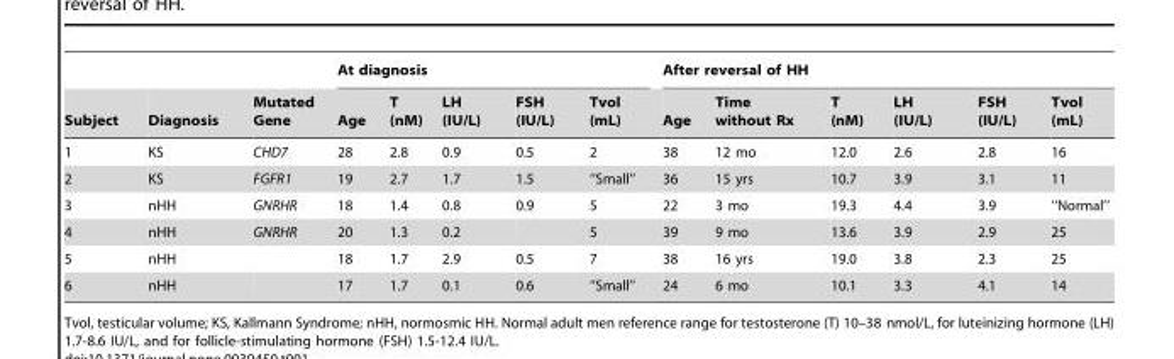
<table><thead><tr><td rowspan="2">Subject</td><td rowspan="2">Diagnosis</td><td rowspan="2">Mutated Gene</td><td colspan="5">At diagnosis</td><td colspan="6">After reversal of HH</td></tr><tr><td>Age</td><td>T (nM)</td><td>LH (IU/L)</td><td>FSH (IU/L)</td><td>Tvol (mL)</td><td>Age</td><td>Time without Rx</td><td>T (nM)</td><td>LH (IU/L)</td><td>FSH (IU/L)</td><td>Tvol (mL)</td></tr></thead><tbody><tr><td>1</td><td>KS</td><td>CHD7</td><td>28</td><td>2.8</td><td>0.9</td><td>0.5</td><td>2</td><td>38</td><td>12 mo</td><td>12.0</td><td>2.6</td><td>2.8</td><td>16</td></tr><tr><td>2</td><td>KS</td><td>FGFR1</td><td>19</td><td>2.7</td><td>1.7</td><td>1.5</td><td>‘‘Small’’</td><td>36</td><td>15 yrs</td><td>10.7</td><td>3.9</td><td>3.1</td><td>11</td></tr><tr><td>3</td><td>nHH</td><td>GNRHR</td><td>18</td><td>1.4</td><td>0.8</td><td>0.9</td><td>5</td><td>22</td><td>3 mo</td><td>19.3</td><td>4.4</td><td>3.9</td><td>‘‘Normal’’</td></tr><tr><td>4</td><td>nHH</td><td>GNRHR</td><td>20</td><td>1.3</td><td>0.2</td><td></td><td>5</td><td>39</td><td>9 mo</td><td>13.6</td><td>3.9</td><td>2.9</td><td>25</td></tr><tr><td>5</td><td>nHH</td><td></td><td>18</td><td>1.7</td><td>2.9</td><td>0.5</td><td>7</td><td>38</td><td>16 yrs</td><td>19.0</td><td>3.8</td><td>2.3</td><td>25</td></tr><tr><td>6</td><td>nHH</td><td></td><td>17</td><td>1.7</td><td>0.1</td><td>0.6</td><td>‘‘Small’’</td><td>24</td><td>6 mo</td><td>10.1</td><td>3.3</td><td>4.1</td><td>14</td></tr></tbody></table>